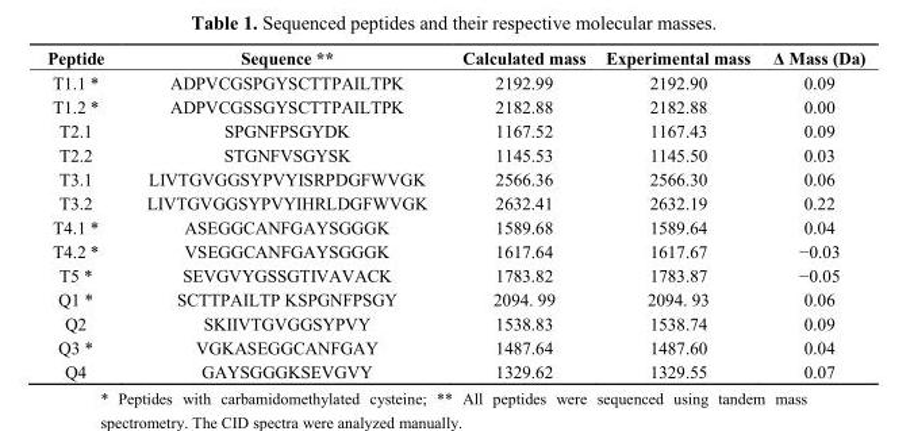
<table><thead><tr><td>Peptide</td><td>Sequence **</td><td>Calculated mass</td><td>Experimental mass</td><td>Δ Mass (Da)</td></tr></thead><tbody><tr><td>T1.1 *</td><td>ADPVCGSPGYSCTTPAILTPK</td><td>2192.99</td><td>2192.90</td><td>0.09</td></tr><tr><td>T1.2 *</td><td>ADPVCGSSGYSCTTPAILTPK</td><td>2182.88</td><td>2182.88</td><td>0.00</td></tr><tr><td>T2.1</td><td>SPGNFPSGYDK</td><td>1167.52</td><td>1167.43</td><td>0.09</td></tr><tr><td>T2.2</td><td>STGNFVSGYSK</td><td>1145.53</td><td>1145.50</td><td>0.03</td></tr><tr><td>T3.1</td><td>LIVTGVGGSYPVYISRPDGFWVGK</td><td>2566.36</td><td>2566.30</td><td>0.06</td></tr><tr><td>T3.2</td><td>LIVTGVGGSYPVYIHRLDGFWVGK</td><td>2632.41</td><td>2632.19</td><td>0.22</td></tr><tr><td>T4.1 *</td><td>ASEGGCANFGAYSGGGK</td><td>1589.68</td><td>1589.64</td><td>0.04</td></tr><tr><td>T4.2 *</td><td>VSEGGCANFGAYSGGGK</td><td>1617.64</td><td>1617.67</td><td>−0.03</td></tr><tr><td>T5 *</td><td>SEVGVYGSSGTIVAVACK</td><td>1783.82</td><td>1783.87</td><td>−0.05</td></tr><tr><td>Q1 *</td><td>SCTTPAILTP KSPGNFPSGY</td><td>2094. 99</td><td>2094. 93</td><td>0.06</td></tr><tr><td>Q2</td><td>SKIIVTGVGGSYPVY</td><td>1538.83</td><td>1538.74</td><td>0.09</td></tr><tr><td>Q3 *</td><td>VGKASEGGCANFGAY</td><td>1487.64</td><td>1487.60</td><td>0.04</td></tr><tr><td>Q4</td><td>GAYSGGGKSEVGVY</td><td>1329.62</td><td>1329.55</td><td>0.07</td></tr></tbody></table>